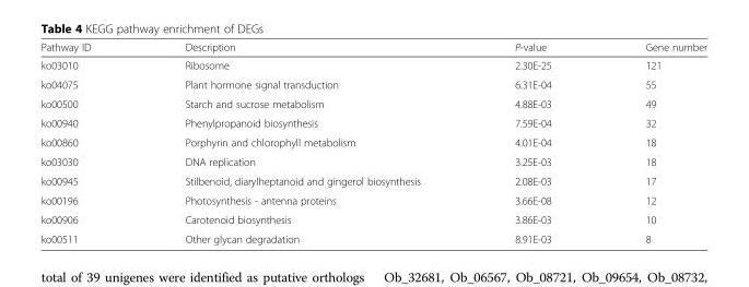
<table><thead><tr><td>Pathway ID</td><td>Description</td><td>P-value</td><td>Gene number</td></tr></thead><tbody><tr><td>ko03010</td><td>Ribosome</td><td>2.30E-25</td><td>121</td></tr><tr><td>ko04075</td><td>Plant hormone signal transduction</td><td>6.31E-04</td><td>55</td></tr><tr><td>ko00500</td><td>Starch and sucrose metabolism</td><td>4.88E-03</td><td>49</td></tr><tr><td>ko00940</td><td>Phenylpropanoid biosynthesis</td><td>7.59E-04</td><td>32</td></tr><tr><td>ko00860</td><td>Porphyrin and chlorophyll metabolism</td><td>4.01E-04</td><td>18</td></tr><tr><td>ko03030</td><td>DNA replication</td><td>3.25E-03</td><td>18</td></tr><tr><td>ko00945</td><td>Stilbenoid, diarylheptanoid and gingerol biosynthesis</td><td>2.08E-03</td><td>17</td></tr><tr><td>ko00196</td><td>Photosynthesis - antenna proteins</td><td>3.66E-08</td><td>12</td></tr><tr><td>ko00906</td><td>Carotenoid biosynthesis</td><td>3.86E-03</td><td>10</td></tr><tr><td>ko00511</td><td>Other glycan degradation</td><td>8.91E-03</td><td>8</td></tr></tbody></table>